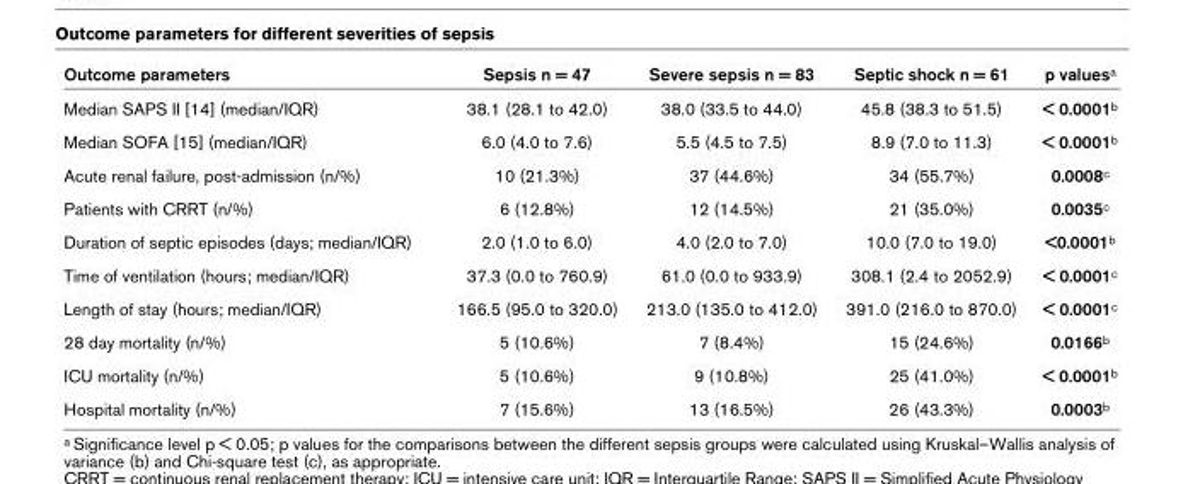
<table><thead><tr><td>Outcome parameters</td><td>Sepsis n = 47</td><td>Severe sepsis n = 83</td><td>Septic shock n = 61</td><td>p values<sup>a</sup></td></tr></thead><tbody><tr><td>Median SAPS II [14] (median/IQR)</td><td>38.1 (28.1 to 42.0)</td><td>38.0 (33.5 to 44.0)</td><td>45.8 (38.3 to 51.5)</td><td>&lt; 0.0001<sup>b</sup></td></tr><tr><td>Median SOFA [15] (median/IQR)</td><td>6.0 (4.0 to 7.6)</td><td>5.5 (4.5 to 7.5)</td><td>8.9 (7.0 to 11.3)</td><td>&lt; 0.0001<sup>b</sup></td></tr><tr><td>Acute renal failure, post-admission (n/%)</td><td>10 (21.3%)</td><td>37 (44.6%)</td><td>34 (55.7%)</td><td>0.0008<sup>c</sup></td></tr><tr><td>Patients with CRRT (n/%)</td><td>6 (12.8%)</td><td>12 (14.5%)</td><td>21 (35.0%)</td><td>0.0035<sup>c</sup></td></tr><tr><td>Duration of septic episodes (days; median/IQR)</td><td>2.0 (1.0 to 6.0)</td><td>4.0 (2.0 to 7.0)</td><td>10.0 (7.0 to 19.0)</td><td>&lt;0.0001<sup>b</sup></td></tr><tr><td>Time of ventilation (hours; median/IQR)</td><td>37.3 (0.0 to 760.9)</td><td>61.0 (0.0 to 933.9)</td><td>308.1 (2.4 to 2052.9)</td><td>&lt; 0.0001<sup>c</sup></td></tr><tr><td>Length of stay (hours; median/IQR)</td><td>166.5 (95.0 to 320.0)</td><td>213.0 (135.0 to 412.0)</td><td>391.0 (216.0 to 870.0)</td><td>&lt; 0.0001<sup>c</sup></td></tr><tr><td>28 day mortality (n/%)</td><td>5 (10.6%)</td><td>7 (8.4%)</td><td>15 (24.6%)</td><td>0.0166<sup>b</sup></td></tr><tr><td>ICU mortality (n/%)</td><td>5 (10.6%)</td><td>9 (10.8%)</td><td>25 (41.0%)</td><td>&lt; 0.0001<sup>b</sup></td></tr><tr><td>Hospital mortality (n/%)</td><td>7 (15.6%)</td><td>13 (16.5%)</td><td>26 (43.3%)</td><td>0.0003<sup>b</sup></td></tr></tbody></table>